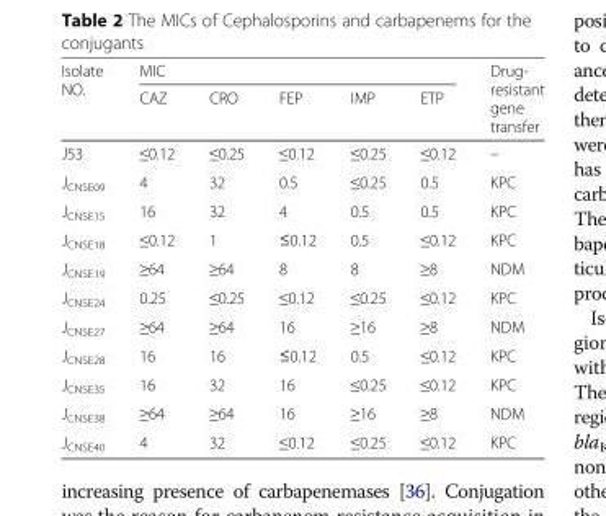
<table><thead><tr><td rowspan="2">Isolate NO.</td><td colspan="5">MIC</td><td rowspan="2">Drug- resistant gene transfer</td></tr><tr><td>CAZ</td><td>CRO</td><td>FEP</td><td>IMP</td><td>ETP</td></tr></thead><tbody><tr><td>J53</td><td>≤0.12</td><td>≤0.25</td><td>≤0.12</td><td>≤0.25</td><td>≤0.12</td><td>–</td></tr><tr><td>J<sub>CNSE09</sub></td><td>4</td><td>32</td><td>0.5</td><td>≤0.25</td><td>0.5</td><td>KPC</td></tr><tr><td>J<sub>CNSE15</sub></td><td>16</td><td>32</td><td>4</td><td>0.5</td><td>0.5</td><td>KPC</td></tr><tr><td>J<sub>CNSE18</sub></td><td>≤0.12</td><td>1</td><td>≤0.12</td><td>0.5</td><td>≤0.12</td><td>KPC</td></tr><tr><td>J<sub>CNSE19</sub></td><td>≥64</td><td>≥64</td><td>8</td><td>8</td><td>≥8</td><td>NDM</td></tr><tr><td>J<sub>CNSE24</sub></td><td>0.25</td><td>≤0.25</td><td>≤0.12</td><td>≤0.25</td><td>≤0.12</td><td>KPC</td></tr><tr><td>J<sub>CNSE27</sub></td><td>≥64</td><td>≥64</td><td>16</td><td>≥16</td><td>≥8</td><td>NDM</td></tr><tr><td>J<sub>CNSE28</sub></td><td>16</td><td>16</td><td>≤0.12</td><td>0.5</td><td>≤0.12</td><td>KPC</td></tr><tr><td>J<sub>CNSE35</sub></td><td>16</td><td>32</td><td>16</td><td>≤0.25</td><td>≤0.12</td><td>KPC</td></tr><tr><td>J<sub>CNSE38</sub></td><td>≥64</td><td>≥64</td><td>16</td><td>≥16</td><td>≥8</td><td>NDM</td></tr><tr><td>J<sub>CNSE40</sub></td><td>4</td><td>32</td><td>≤0.12</td><td>≤0.25</td><td>≤0.12</td><td>KPC</td></tr></tbody></table>